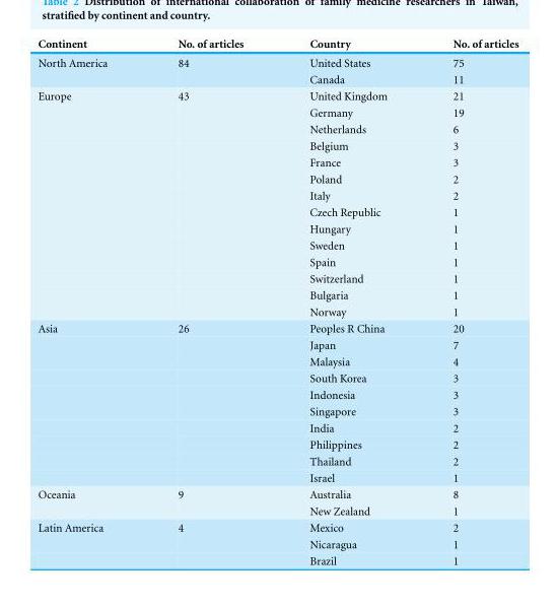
<table><thead><tr><td>Continent</td><td>No. of articles</td><td>Country</td><td>No. of articles</td></tr></thead><tbody><tr><td rowspan="2">North America</td><td>84</td><td>United States</td><td>75</td></tr><tr><td></td><td>Canada</td><td>11</td></tr><tr><td rowspan="14">Europe</td><td>43</td><td>United Kingdom</td><td>21</td></tr><tr><td></td><td>Germany</td><td>19</td></tr><tr><td></td><td>Netherlands</td><td>6</td></tr><tr><td></td><td>Belgium</td><td>3</td></tr><tr><td></td><td>France</td><td>3</td></tr><tr><td></td><td>Poland</td><td>2</td></tr><tr><td></td><td>Italy</td><td>2</td></tr><tr><td></td><td>Czech Republic</td><td>1</td></tr><tr><td></td><td>Hungary</td><td>1</td></tr><tr><td></td><td>Sweden</td><td>1</td></tr><tr><td></td><td>Spain</td><td>1</td></tr><tr><td></td><td>Switzerland</td><td>1</td></tr><tr><td></td><td>Bulgaria</td><td>1</td></tr><tr><td></td><td>Norway</td><td>1</td></tr><tr><td rowspan="10">Asia</td><td>26</td><td>Peoples R China</td><td>20</td></tr><tr><td></td><td>Japan</td><td>7</td></tr><tr><td></td><td>Malaysia</td><td>4</td></tr><tr><td></td><td>South Korea</td><td>3</td></tr><tr><td></td><td>Indonesia</td><td>3</td></tr><tr><td></td><td>Singapore</td><td>3</td></tr><tr><td></td><td>India</td><td>2</td></tr><tr><td></td><td>Philippines</td><td>2</td></tr><tr><td></td><td>Thailand</td><td>2</td></tr><tr><td></td><td>Israel</td><td>1</td></tr><tr><td rowspan="2">Oceania</td><td>9</td><td>Australia</td><td>8</td></tr><tr><td></td><td>New Zealand</td><td>1</td></tr><tr><td rowspan="3">Latin America</td><td>4</td><td>Mexico</td><td>2</td></tr><tr><td></td><td>Nicaragua</td><td>1</td></tr><tr><td></td><td>Brazil</td><td>1</td></tr></tbody></table>